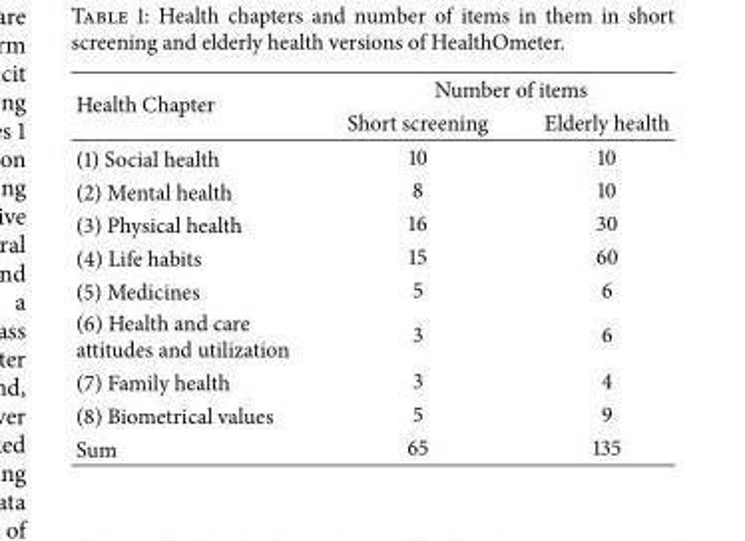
<table><thead><tr><td rowspan="2">Health Chapter</td><td colspan="2">Number of items</td></tr><tr><td>Short screening</td><td>Elderly health</td></tr></thead><tbody><tr><td>(1) Social health</td><td>10</td><td>10</td></tr><tr><td>(2) Mental health</td><td>8</td><td>10</td></tr><tr><td>(3) Physical health</td><td>16</td><td>30</td></tr><tr><td>(4) Life habits</td><td>15</td><td>60</td></tr><tr><td>(5) Medicines</td><td>5</td><td>6</td></tr><tr><td>(6) Health and care attitudes and utilization</td><td>3</td><td>6</td></tr><tr><td>(7) Family health</td><td>3</td><td>4</td></tr><tr><td>(8) Biometrical values</td><td>5</td><td>9</td></tr><tr><td>Sum</td><td>65</td><td>135</td></tr></tbody></table>